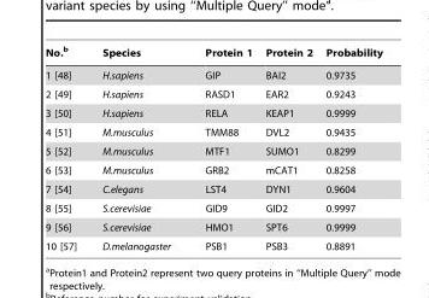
<table><thead><tr><td>No.<sup>b</sup></td><td>Species</td><td>Protein 1</td><td>Protein 2</td><td>Probability</td></tr></thead><tbody><tr><td>1 [48]</td><td>H.sapiens</td><td>GIP</td><td>BAI2</td><td>0.9735</td></tr><tr><td>2 [49]</td><td>H.sapiens</td><td>RASD1</td><td>EAR2</td><td>0.9243</td></tr><tr><td>3 [50]</td><td>H.sapiens</td><td>RELA</td><td>KEAP1</td><td>0.9999</td></tr><tr><td>4 [51]</td><td>M.musculus</td><td>TMM88</td><td>DVL2</td><td>0.9435</td></tr><tr><td>5 [52]</td><td>M.musculus</td><td>MTF1</td><td>SUMO1</td><td>0.8299</td></tr><tr><td>6 [53]</td><td>M.musculus</td><td>GRB2</td><td>mCAT1</td><td>0.8258</td></tr><tr><td>7 [54]</td><td>C.elegans</td><td>LST4</td><td>DYN1</td><td>0.9604</td></tr><tr><td>8 [55]</td><td>S.cerevisiae</td><td>GID9</td><td>GID2</td><td>0.9997</td></tr><tr><td>9 [56]</td><td>S.cerevisiae</td><td>HMO1</td><td>SPT6</td><td>0.9999</td></tr><tr><td>10 [57]</td><td>D.melanogaster</td><td>PSB1</td><td>PSB3</td><td>0.8891</td></tr></tbody></table>